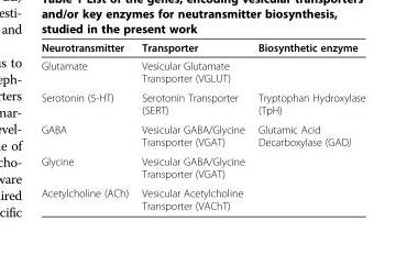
<table><thead><tr><td>Neurotransmitter</td><td>Transporter</td><td>Biosynthetic enzyme</td></tr></thead><tbody><tr><td>Glutamate</td><td>Vesicular Glutamate Transporter (VGLUT)</td><td></td></tr><tr><td>Serotonin (5-HT)</td><td>Serotonin Transporter (SERT)</td><td>Tryptophan Hydroxylase (TpH)</td></tr><tr><td>GABA</td><td>Vesicular GABA/Glycine Transporter (VGAT)</td><td>Glutamic Acid Decarboxylase (GAD)</td></tr><tr><td>Glycine</td><td>Vesicular GABA/Glycine Transporter (VGAT)</td><td></td></tr><tr><td>Acetylcholine (ACh)</td><td>Vesicular Acetylcholine Transporter (VAChT)</td><td></td></tr></tbody></table>